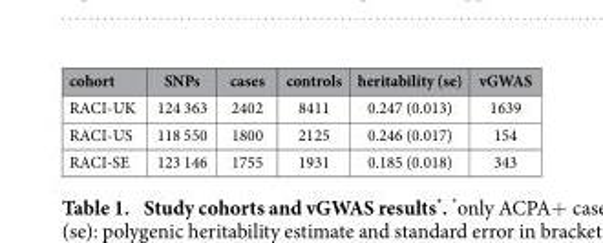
<table><thead><tr><td>cohort</td><td>SNPs</td><td>cases</td><td>controls</td><td>heritability (se)</td><td>vGWAS</td></tr></thead><tbody><tr><td>RACI-UK</td><td>124 363</td><td>2402</td><td>8411</td><td>0.247 (0.013)</td><td>1639</td></tr><tr><td>RACI-US</td><td>118 550</td><td>1800</td><td>2125</td><td>0.246 (0.017)</td><td>154</td></tr><tr><td>RACI-SE</td><td>123 146</td><td>1755</td><td>1931</td><td>0.185 (0.018)</td><td>343</td></tr></tbody></table>